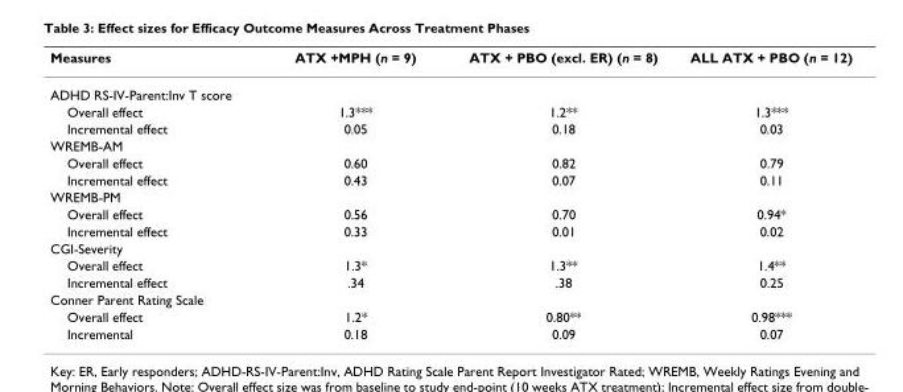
<table><thead><tr><td>Measures</td><td>ATX +MPH (n = 9)</td><td>ATX + PBO (excl. ER) (n = 8)</td><td>ALL ATX + PBO (n = 12)</td></tr></thead><tbody><tr><td colspan="4">ADHD RS-IV-Parent:Inv T score</td></tr><tr><td>Overall effect</td><td>1.3***</td><td>1.2**</td><td>1.3***</td></tr><tr><td>Incremental effect</td><td>0.05</td><td>0.18</td><td>0.03</td></tr><tr><td colspan="4">WREMB-AM</td></tr><tr><td>Overall effect</td><td>0.60</td><td>0.82</td><td>0.79</td></tr><tr><td>Incremental effect</td><td>0.43</td><td>0.07</td><td>0.11</td></tr><tr><td colspan="4">WREMB-PM</td></tr><tr><td>Overall effect</td><td>0.56</td><td>0.70</td><td>0.94*</td></tr><tr><td>Incremental effect</td><td>0.33</td><td>0.01</td><td>0.02</td></tr><tr><td colspan="4">CGI-Severity</td></tr><tr><td>Overall effect</td><td>1.3*</td><td>1.3**</td><td>1.4**</td></tr><tr><td>Incremental effect</td><td>.34</td><td>.38</td><td>0.25</td></tr><tr><td colspan="4">Conner Parent Rating Scale</td></tr><tr><td>Overall effect</td><td>1.2*</td><td>0.80**</td><td>0.98***</td></tr><tr><td>Incremental</td><td>0.18</td><td>0.09</td><td>0.07</td></tr></tbody></table>